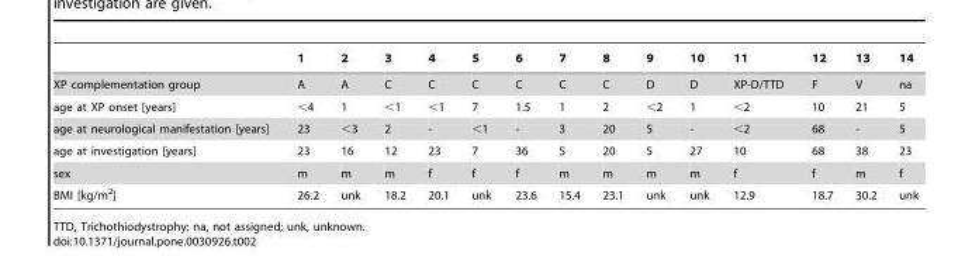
<table><thead><tr><td></td><td>1</td><td>2</td><td>3</td><td>4</td><td>5</td><td>6</td><td>7</td><td>8</td><td>9</td><td>10</td><td>11</td><td>12</td><td>13</td><td>14</td></tr></thead><tbody><tr><td>XP complementation group</td><td>A</td><td>A</td><td>C</td><td>C</td><td>C</td><td>C</td><td>C</td><td>C</td><td>D</td><td>D</td><td>XP-D/TTD</td><td>F</td><td>V</td><td>na</td></tr><tr><td>age at XP onset [years]</td><td>&lt;4</td><td>1</td><td>&lt;1</td><td>&lt;1</td><td>7</td><td>1.5</td><td>1</td><td>2</td><td>&lt;2</td><td>1</td><td>&lt;2</td><td>10</td><td>21</td><td>5</td></tr><tr><td>age at neurological manifestation [years]</td><td>23</td><td>&lt;3</td><td>2</td><td>-</td><td>&lt;1</td><td>-</td><td>3</td><td>20</td><td>5</td><td>-</td><td>&lt;2</td><td>68</td><td>-</td><td>5</td></tr><tr><td>age at investigation [years]</td><td>23</td><td>16</td><td>12</td><td>23</td><td>7</td><td>36</td><td>5</td><td>20</td><td>5</td><td>27</td><td>10</td><td>68</td><td>38</td><td>23</td></tr><tr><td>sex</td><td>m</td><td>m</td><td>m</td><td>f</td><td>f</td><td>f</td><td>m</td><td>m</td><td>m</td><td>m</td><td>f</td><td>f</td><td>m</td><td>f</td></tr><tr><td>BMI [kg/m<sup>2</sup>]</td><td>26.2</td><td>unk</td><td>18.2</td><td>20.1</td><td>unk</td><td>23.6</td><td>15.4</td><td>23.1</td><td>unk</td><td>unk</td><td>12.9</td><td>18.7</td><td>30.2</td><td>unk</td></tr></tbody></table>